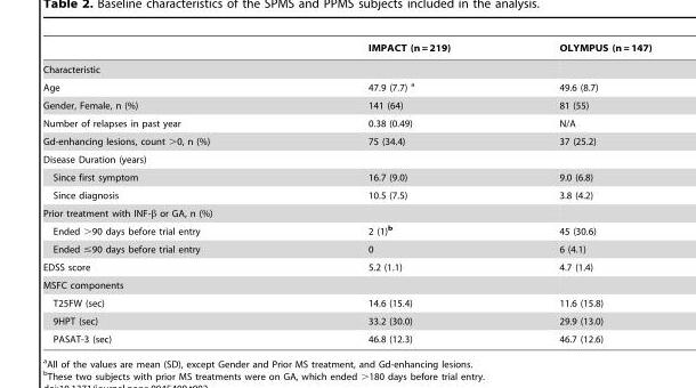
<table><thead><tr><td></td><td>IMPACT (n = 219)</td><td>OLYMPUS (n = 147)</td></tr></thead><tbody><tr><td colspan="3">Characteristic</td></tr><tr><td>Age</td><td>47.9 (7.7) a</td><td>49.6 (8.7)</td></tr><tr><td>Gender, Female, n (%)</td><td>141 (64)</td><td>81 (55)</td></tr><tr><td>Number of relapses in past year</td><td>0.38 (0.49)</td><td>N/A</td></tr><tr><td>Gd-enhancing lesions, count &gt;0, n (%)</td><td>75 (34.4)</td><td>37 (25.2)</td></tr><tr><td colspan="3">Disease Duration (years)</td></tr><tr><td>Since first symptom</td><td>16.7 (9.0)</td><td>9.0 (6.8)</td></tr><tr><td>Since diagnosis</td><td>10.5 (7.5)</td><td>3.8 (4.2)</td></tr><tr><td colspan="3">Prior treatment with INF-β or GA, n (%)</td></tr><tr><td>Ended &gt;90 days before trial entry</td><td>2 (1)<sup>b</sup></td><td>45 (30.6)</td></tr><tr><td>Ended ≤90 days before trial entry</td><td>0</td><td>6 (4.1)</td></tr><tr><td>EDSS score</td><td>5.2 (1.1)</td><td>4.7 (1.4)</td></tr><tr><td colspan="3">MSFC components</td></tr><tr><td>T25FW (sec)</td><td>14.6 (15.4)</td><td>11.6 (15.8)</td></tr><tr><td>9HPT (sec)</td><td>33.2 (30.0)</td><td>29.9 (13.0)</td></tr><tr><td>PASAT-3 (sec)</td><td>46.8 (12.3)</td><td>46.7 (12.6)</td></tr></tbody></table>